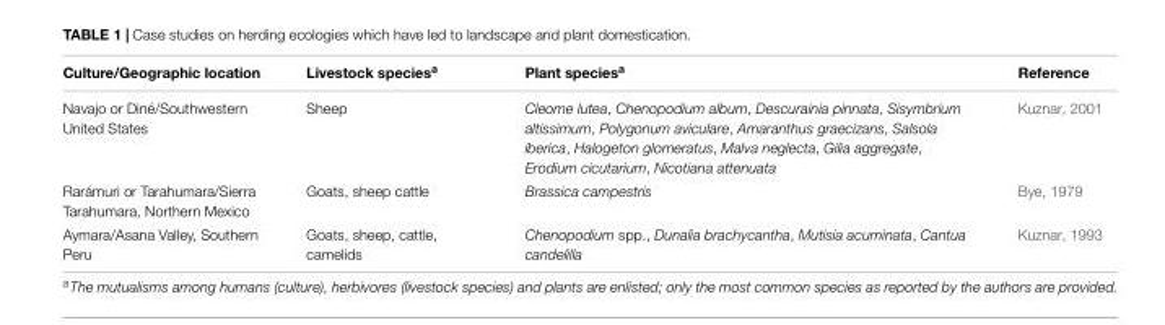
<table><thead><tr><td>Culture/Geographic location</td><td>Livestock species<sup>a</sup></td><td>Plant species<sup>a</sup></td><td>Reference</td></tr></thead><tbody><tr><td>Navajo or Diné/Southwestern United States</td><td>Sheep</td><td>Cleome lutea, Chenopodium album, Descurainia pinnata, Sisymbrium altissimum, Polygonum aviculare, Amaranthus graecizans, Salsola iberica, Halogeton glomeratus, Malva neglecta, Gilia aggregate, Erodium cicutarium, Nicotiana attenuata</td><td>Kuznar, 2001</td></tr><tr><td>Rarámuri or Tarahumara/Sierra Tarahumara, Northern Mexico</td><td>Goats, sheep cattle</td><td>Brassica campestris</td><td>Bye, 1979</td></tr><tr><td>Aymara/Asana Valley, Southern Peru</td><td>Goats, sheep, cattle, camelids</td><td>Chenopodium spp., Dunalia brachycantha, Mutisia acuminata, Cantua candelilla</td><td>Kuznar, 1993</td></tr></tbody></table>